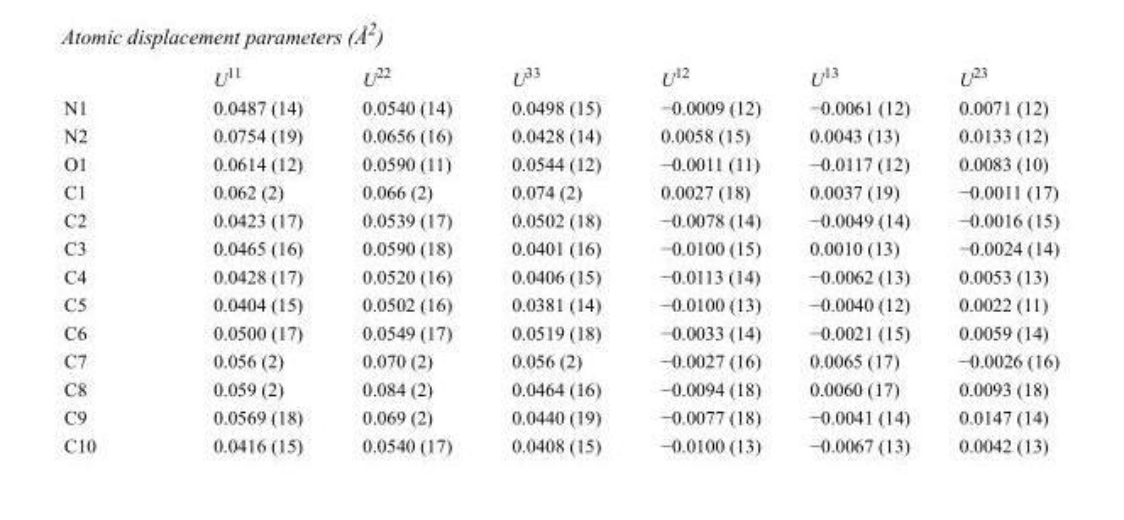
<table><thead><tr><td></td><td>U<sup>11</sup></td><td>U<sup>22</sup></td><td>U<sup>33</sup></td><td>U<sup>12</sup></td><td>U<sup>13</sup></td><td>U<sup>23</sup></td></tr></thead><tbody><tr><td>N1</td><td>0.0487 (14)</td><td>0.0540 (14)</td><td>0.0498 (15)</td><td>−0.0009 (12)</td><td>−0.0061 (12)</td><td>0.0071 (12)</td></tr><tr><td>N2</td><td>0.0754 (19)</td><td>0.0656 (16)</td><td>0.0428 (14)</td><td>0.0058 (15)</td><td>0.0043 (13)</td><td>0.0133 (12)</td></tr><tr><td>O1</td><td>0.0614 (12)</td><td>0.0590 (11)</td><td>0.0544 (12)</td><td>−0.0011 (11)</td><td>−0.0117 (12)</td><td>0.0083 (10)</td></tr><tr><td>C1</td><td>0.062 (2)</td><td>0.066 (2)</td><td>0.074 (2)</td><td>0.0027 (18)</td><td>0.0037 (19)</td><td>−0.0011 (17)</td></tr><tr><td>C2</td><td>0.0423 (17)</td><td>0.0539 (17)</td><td>0.0502 (18)</td><td>−0.0078 (14)</td><td>−0.0049 (14)</td><td>−0.0016 (15)</td></tr><tr><td>C3</td><td>0.0465 (16)</td><td>0.0590 (18)</td><td>0.0401 (16)</td><td>−0.0100 (15)</td><td>0.0010 (13)</td><td>−0.0024 (14)</td></tr><tr><td>C4</td><td>0.0428 (17)</td><td>0.0520 (16)</td><td>0.0406 (15)</td><td>−0.0113 (14)</td><td>−0.0062 (13)</td><td>0.0053 (13)</td></tr><tr><td>C5</td><td>0.0404 (15)</td><td>0.0502 (16)</td><td>0.0381 (14)</td><td>−0.0100 (13)</td><td>−0.0040 (12)</td><td>0.0022 (11)</td></tr><tr><td>C6</td><td>0.0500 (17)</td><td>0.0549 (17)</td><td>0.0519 (18)</td><td>−0.0033 (14)</td><td>−0.0021 (15)</td><td>0.0059 (14)</td></tr><tr><td>C7</td><td>0.056 (2)</td><td>0.070 (2)</td><td>0.056 (2)</td><td>−0.0027 (16)</td><td>0.0065 (17)</td><td>−0.0026 (16)</td></tr><tr><td>C8</td><td>0.059 (2)</td><td>0.084 (2)</td><td>0.0464 (16)</td><td>−0.0094 (18)</td><td>0.0060 (17)</td><td>0.0093 (18)</td></tr><tr><td>C9</td><td>0.0569 (18)</td><td>0.069 (2)</td><td>0.0440 (19)</td><td>−0.0077 (18)</td><td>−0.0041 (14)</td><td>0.0147 (14)</td></tr><tr><td>C10</td><td>0.0416 (15)</td><td>0.0540 (17)</td><td>0.0408 (15)</td><td>−0.0100 (13)</td><td>−0.0067 (13)</td><td>0.0042 (13)</td></tr></tbody></table>